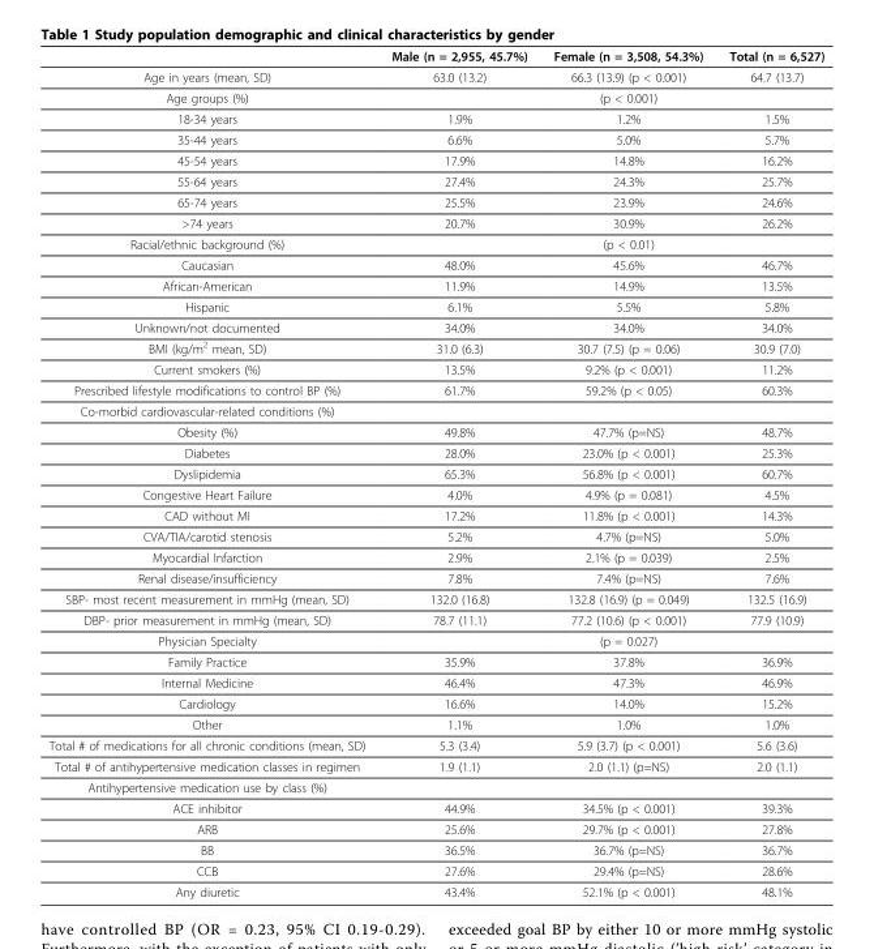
<table><thead><tr><td></td><td>Male (n = 2,955, 45.7%)</td><td>Female (n = 3,508, 54.3%)</td><td>Total (n = 6,527)</td></tr></thead><tbody><tr><td>Age in years (mean, SD)</td><td>63.0 (13.2)</td><td>66.3 (13.9) (p &lt; 0.001)</td><td>64.7 (13.7)</td></tr><tr><td>Age groups (%)</td><td></td><td>(p &lt; 0.001)</td><td></td></tr><tr><td>18-34 years</td><td>1.9%</td><td>1.2%</td><td>1.5%</td></tr><tr><td>35-44 years</td><td>6.6%</td><td>5.0%</td><td>5.7%</td></tr><tr><td>45-54 years</td><td>17.9%</td><td>14.8%</td><td>16.2%</td></tr><tr><td>55-64 years</td><td>27.4%</td><td>24.3%</td><td>25.7%</td></tr><tr><td>65-74 years</td><td>25.5%</td><td>23.9%</td><td>24.6%</td></tr><tr><td>&gt;74 years</td><td>20.7%</td><td>30.9%</td><td>26.2%</td></tr><tr><td>Racial/ethnic background (%)</td><td></td><td>(p &lt; 0.01)</td><td></td></tr><tr><td>Caucasian</td><td>48.0%</td><td>45.6%</td><td>46.7%</td></tr><tr><td>African-American</td><td>11.9%</td><td>14.9%</td><td>13.5%</td></tr><tr><td>Hispanic</td><td>6.1%</td><td>5.5%</td><td>5.8%</td></tr><tr><td>Unknown/not documented</td><td>34.0%</td><td>34.0%</td><td>34.0%</td></tr><tr><td>BMI (kg/m<sup>2</sup> mean, SD)</td><td>31.0 (6.3)</td><td>30.7 (7.5) (p = 0.06)</td><td>30.9 (7.0)</td></tr><tr><td>Current smokers (%)</td><td>13.5%</td><td>9.2% (p &lt; 0.001)</td><td>11.2%</td></tr><tr><td>Prescribed lifestyle modifications to control BP (%)</td><td>61.7%</td><td>59.2% (p &lt; 0.05)</td><td>60.3%</td></tr><tr><td colspan="4">Co-morbid cardiovascular-related conditions (%)</td></tr><tr><td>Obesity (%)</td><td>49.8%</td><td>47.7% (p=NS)</td><td>48.7%</td></tr><tr><td>Diabetes</td><td>28.0%</td><td>23.0% (p &lt; 0.001)</td><td>25.3%</td></tr><tr><td>Dyslipidemia</td><td>65.3%</td><td>56.8% (p &lt; 0.001)</td><td>60.7%</td></tr><tr><td>Congestive Heart Failure</td><td>4.0%</td><td>4.9% (p = 0.081)</td><td>4.5%</td></tr><tr><td>CAD without MI</td><td>17.2%</td><td>11.8% (p &lt; 0.001)</td><td>14.3%</td></tr><tr><td>CVA/TIA/carotid stenosis</td><td>5.2%</td><td>4.7% (p=NS)</td><td>5.0%</td></tr><tr><td>Myocardial Infarction</td><td>2.9%</td><td>2.1% (p = 0.039)</td><td>2.5%</td></tr><tr><td>Renal disease/insufficiency</td><td>7.8%</td><td>7.4% (p=NS)</td><td>7.6%</td></tr><tr><td>SBP- most recent measurement in mmHg (mean, SD)</td><td>132.0 (16.8)</td><td>132.8 (16.9) (p = 0.049)</td><td>132.5 (16.9)</td></tr><tr><td>DBP- prior measurement in mmHg (mean, SD)</td><td>78.7 (11.1)</td><td>77.2 (10.6) (p &lt; 0.001)</td><td>77.9 (10.9)</td></tr><tr><td>Physician Specialty</td><td></td><td>(p = 0.027)</td><td></td></tr><tr><td>Family Practice</td><td>35.9%</td><td>37.8%</td><td>36.9%</td></tr><tr><td>Internal Medicine</td><td>46.4%</td><td>47.3%</td><td>46.9%</td></tr><tr><td>Cardiology</td><td>16.6%</td><td>14.0%</td><td>15.2%</td></tr><tr><td>Other</td><td>1.1%</td><td>1.0%</td><td>1.0%</td></tr><tr><td>Total # of medications for all chronic conditions (mean, SD)</td><td>5.3 (3.4)</td><td>5.9 (3.7) (p &lt; 0.001)</td><td>5.6 (3.6)</td></tr><tr><td>Total # of antihypertensive medication classes in regimen</td><td>1.9 (1.1)</td><td>2.0 (1.1) (p=NS)</td><td>2.0 (1.1)</td></tr><tr><td colspan="4">Antihypertensive medication use by class (%)</td></tr><tr><td>ACE inhibitor</td><td>44.9%</td><td>34.5% (p &lt; 0.001)</td><td>39.3%</td></tr><tr><td>ARB</td><td>25.6%</td><td>29.7% (p &lt; 0.001)</td><td>27.8%</td></tr><tr><td>BB</td><td>36.5%</td><td>36.7% (p=NS)</td><td>36.7%</td></tr><tr><td>CCB</td><td>27.6%</td><td>29.4% (p=NS)</td><td>28.6%</td></tr><tr><td>Any diuretic</td><td>43.4%</td><td>52.1% (p &lt; 0.001)</td><td>48.1%</td></tr></tbody></table>